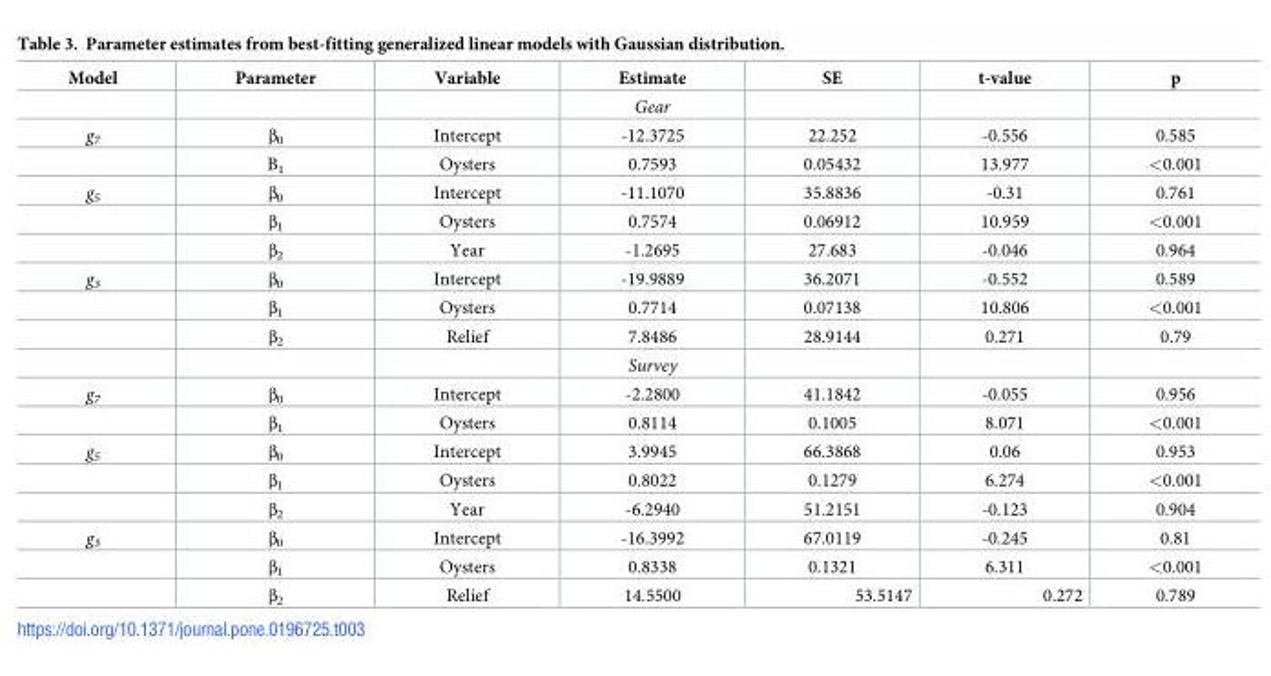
<table><thead><tr><td>Model</td><td>Parameter</td><td>Variable</td><td>Estimate</td><td>SE</td><td>t-value</td><td>p</td></tr></thead><tbody><tr><td></td><td></td><td></td><td>Gear</td><td></td><td></td><td></td></tr><tr><td rowspan="2">g<sub>7</sub></td><td>β<sub>0</sub></td><td>Intercept</td><td>-12.3725</td><td>22.252</td><td>-0.556</td><td>0.585</td></tr><tr><td>Β<sub>1</sub></td><td>Oysters</td><td>0.7593</td><td>0.05432</td><td>13.977</td><td>&lt;0.001</td></tr><tr><td rowspan="3">g<sub>5</sub></td><td>β<sub>0</sub></td><td>Intercept</td><td>-11.1070</td><td>35.8836</td><td>-0.31</td><td>0.761</td></tr><tr><td>β<sub>1</sub></td><td>Oysters</td><td>0.7574</td><td>0.06912</td><td>10.959</td><td>&lt;0.001</td></tr><tr><td>β<sub>2</sub></td><td>Year</td><td>-1.2695</td><td>27.683</td><td>-0.046</td><td>0.964</td></tr><tr><td rowspan="4">g<sub>3</sub></td><td>β<sub>0</sub></td><td>Intercept</td><td>-19.9889</td><td>36.2071</td><td>-0.552</td><td>0.589</td></tr><tr><td>β<sub>1</sub></td><td>Oysters</td><td>0.7714</td><td>0.07138</td><td>10.806</td><td>&lt;0.001</td></tr><tr><td>β<sub>2</sub></td><td>Relief</td><td>7.8486</td><td>28.9144</td><td>0.271</td><td>0.79</td></tr><tr><td></td><td></td><td>Survey</td><td></td><td></td><td></td></tr><tr><td rowspan="2">g<sub>7</sub></td><td>β<sub>0</sub></td><td>Intercept</td><td>-2.2800</td><td>41.1842</td><td>-0.055</td><td>0.956</td></tr><tr><td>β<sub>1</sub></td><td>Oysters</td><td>0.8114</td><td>0.1005</td><td>8.071</td><td>&lt;0.001</td></tr><tr><td rowspan="3">g<sub>5</sub></td><td>β<sub>0</sub></td><td>Intercept</td><td>3.9945</td><td>66.3868</td><td>0.06</td><td>0.953</td></tr><tr><td>β<sub>1</sub></td><td>Oysters</td><td>0.8022</td><td>0.1279</td><td>6.274</td><td>&lt;0.001</td></tr><tr><td>β<sub>2</sub></td><td>Year</td><td>-6.2940</td><td>51.2151</td><td>-0.123</td><td>0.904</td></tr><tr><td rowspan="3">g<sub>3</sub></td><td>β<sub>0</sub></td><td>Intercept</td><td>-16.3992</td><td>67.0119</td><td>-0.245</td><td>0.81</td></tr><tr><td>β<sub>1</sub></td><td>Oysters</td><td>0.8338</td><td>0.1321</td><td>6.311</td><td>&lt;0.001</td></tr><tr><td>β<sub>2</sub></td><td>Relief</td><td>14.5500</td><td>53.5147</td><td>0.272</td><td>0.789</td></tr></tbody></table>